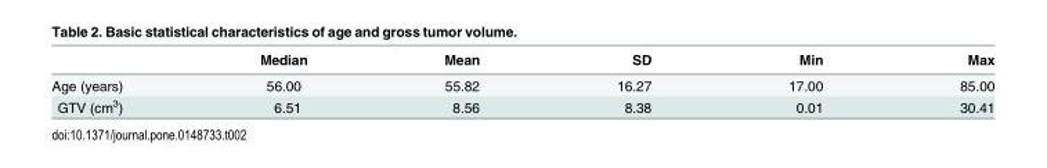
<table><thead><tr><td></td><td>Median</td><td>Mean</td><td>SD</td><td>Min</td><td>Max</td></tr></thead><tbody><tr><td>Age (years)</td><td>56.00</td><td>55.82</td><td>16.27</td><td>17.00</td><td>85.00</td></tr><tr><td>GTV (cm<sup>3</sup>)</td><td>6.51</td><td>8.56</td><td>8.38</td><td>0.01</td><td>30.41</td></tr></tbody></table>